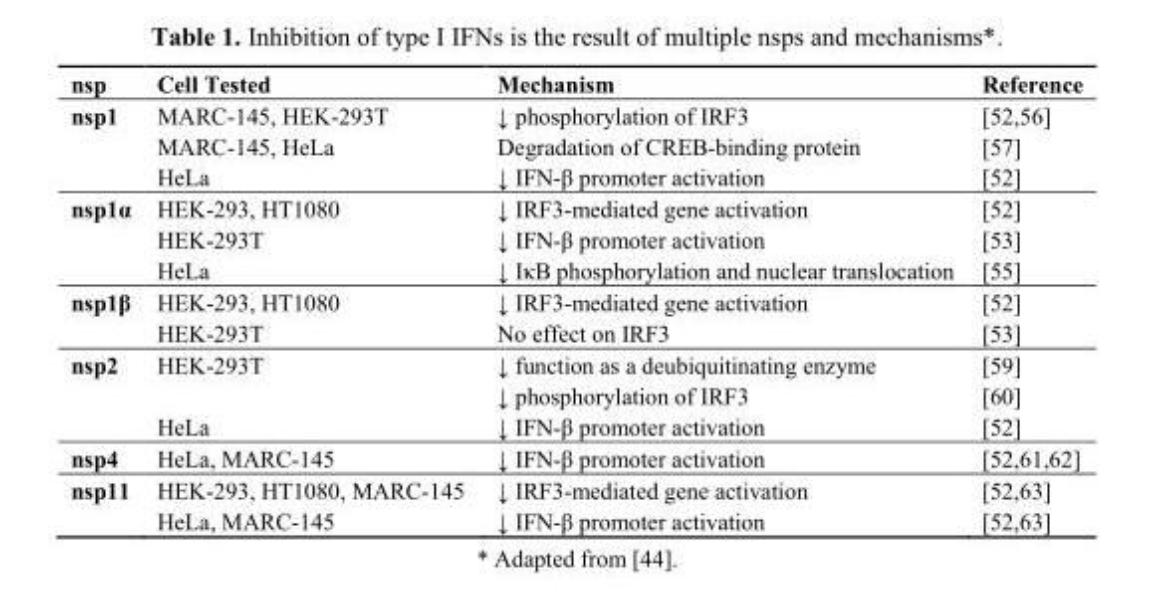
<table><thead><tr><td>nsp</td><td>Cell Tested</td><td>Mechanism</td><td>Reference</td></tr></thead><tbody><tr><td rowspan="3">nsp1</td><td>MARC-145, HEK-293T</td><td>↓ phosphorylation of IRF3</td><td>[52,56]</td></tr><tr><td>MARC-145, HeLa</td><td>Degradation of CREB-binding protein</td><td>[57]</td></tr><tr><td>HeLa</td><td>↓ IFN-β promoter activation</td><td>[52]</td></tr><tr><td rowspan="3">nsp1α</td><td>HEK-293, HT1080</td><td>↓ IRF3-mediated gene activation</td><td>[52]</td></tr><tr><td>HEK-293T</td><td>↓ IFN-β promoter activation</td><td>[53]</td></tr><tr><td>HeLa</td><td>↓ IκB phosphorylation and nuclear translocation</td><td>[55]</td></tr><tr><td rowspan="2">nsp1β</td><td>HEK-293, HT1080</td><td>↓ IRF3-mediated gene activation</td><td>[52]</td></tr><tr><td>HEK-293T</td><td>No effect on IRF3</td><td>[53]</td></tr><tr><td rowspan="3">nsp2</td><td>HEK-293T</td><td>↓ function as a deubiquitinating enzyme</td><td>[59]</td></tr><tr><td></td><td>↓ phosphorylation of IRF3</td><td>[60]</td></tr><tr><td>HeLa</td><td>↓ IFN-β promoter activation</td><td>[52]</td></tr><tr><td>nsp4</td><td>HeLa, MARC-145</td><td>↓ IFN-β promoter activation</td><td>[52,61,62]</td></tr><tr><td rowspan="2">nsp11</td><td>HEK-293, HT1080, MARC-145</td><td>↓ IRF3-mediated gene activation</td><td>[52,63]</td></tr><tr><td>HeLa, MARC-145</td><td>↓ IFN-β promoter activation</td><td>[52,63]</td></tr></tbody></table>